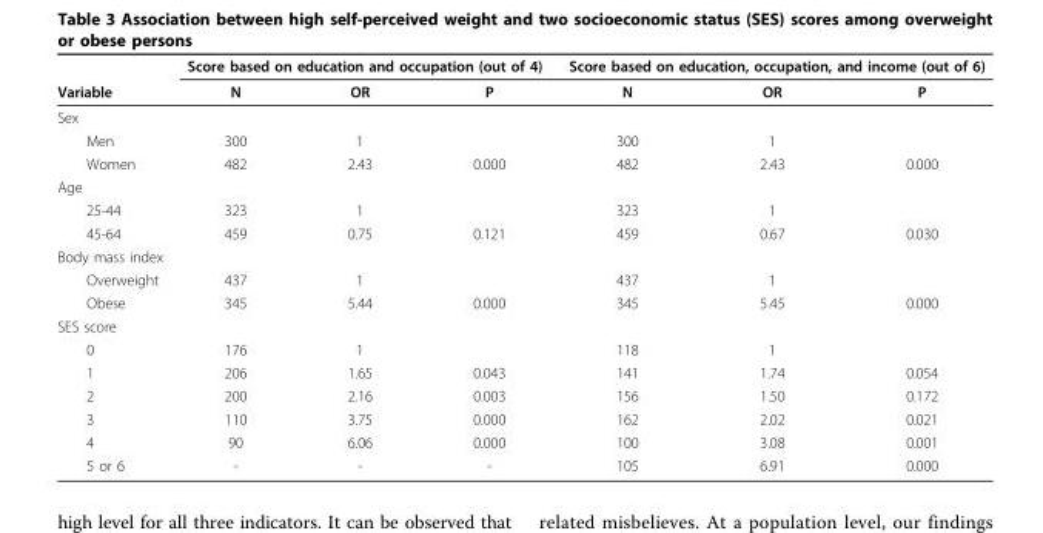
<table><thead><tr><td rowspan="2">Variable</td><td colspan="3">Score based on education and occupation (out of 4)</td><td colspan="3">Score based on education, occupation, and income (out of 6)</td></tr><tr><td>N</td><td>OR</td><td>P</td><td>N</td><td>OR</td><td>P</td></tr></thead><tbody><tr><td colspan="7">Sex</td></tr><tr><td>Men</td><td>300</td><td>1</td><td></td><td>300</td><td>1</td><td></td></tr><tr><td>Women</td><td>482</td><td>2.43</td><td>0.000</td><td>482</td><td>2.43</td><td>0.000</td></tr><tr><td colspan="7">Age</td></tr><tr><td>25-44</td><td>323</td><td>1</td><td></td><td>323</td><td>1</td><td></td></tr><tr><td>45-64</td><td>459</td><td>0.75</td><td>0.121</td><td>459</td><td>0.67</td><td>0.030</td></tr><tr><td colspan="7">Body mass index</td></tr><tr><td>Overweight</td><td>437</td><td>1</td><td></td><td>437</td><td>1</td><td></td></tr><tr><td>Obese</td><td>345</td><td>5.44</td><td>0.000</td><td>345</td><td>5.45</td><td>0.000</td></tr><tr><td colspan="7">SES score</td></tr><tr><td>0</td><td>176</td><td>1</td><td></td><td>118</td><td>1</td><td></td></tr><tr><td>1</td><td>206</td><td>1.65</td><td>0.043</td><td>141</td><td>1.74</td><td>0.054</td></tr><tr><td>2</td><td>200</td><td>2.16</td><td>0.003</td><td>156</td><td>1.50</td><td>0.172</td></tr><tr><td>3</td><td>110</td><td>3.75</td><td>0.000</td><td>162</td><td>2.02</td><td>0.021</td></tr><tr><td>4</td><td>90</td><td>6.06</td><td>0.000</td><td>100</td><td>3.08</td><td>0.001</td></tr><tr><td>5 or 6</td><td>-</td><td>-</td><td>-</td><td>105</td><td>6.91</td><td>0.000</td></tr></tbody></table>